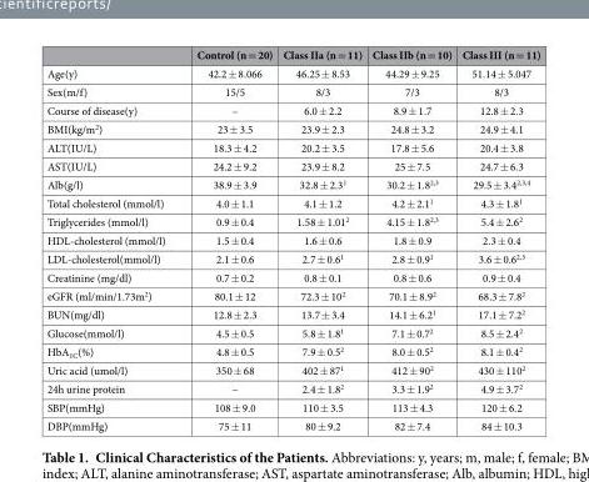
<table><thead><tr><td></td><td>Control (n = 20)</td><td>Class IIa (n = 11)</td><td>Class IIb (n = 10)</td><td>Class III (n = 11)</td></tr></thead><tbody><tr><td>Age(y)</td><td>42.2 ± 8.066</td><td>46.25 ± 8.53</td><td>44.29 ± 9.25</td><td>51.14 ± 5.047</td></tr><tr><td>Sex(m/f)</td><td>15/5</td><td>8/3</td><td>7/3</td><td>8/3</td></tr><tr><td>Course of disease(y)</td><td>–</td><td>6.0 ± 2.2</td><td>8.9 ± 1.7</td><td>12.8 ± 2.3</td></tr><tr><td>BMI(kg/m<sup>2</sup>)</td><td>23 ± 3.5</td><td>23.9 ± 2.3</td><td>24.8 ± 3.2</td><td>24.9 ± 4.1</td></tr><tr><td>ALT(IU/L)</td><td>18.3 ± 4.2</td><td>20.2 ± 3.5</td><td>17.8 ± 5.6</td><td>20.4 ± 3.8</td></tr><tr><td>AST(IU/L)</td><td>24.2 ± 9.2</td><td>23.9 ± 8.2</td><td>25 ± 7.5</td><td>24.7 ± 6.3</td></tr><tr><td>Alb(g/l)</td><td>38.9 ± 3.9</td><td>32.8 ± 2.3<sup>1</sup></td><td>30.2 ± 1.8<sup>2,3</sup></td><td>29.5 ± 3.4<sup>2,3,4</sup></td></tr><tr><td>Total cholesterol (mmol/l)</td><td>4.0 ± 1.1</td><td>4.1 ± 1.2</td><td>4.2 ± 2.1<sup>1</sup></td><td>4.3 ± 1.8<sup>1</sup></td></tr><tr><td>Triglycerides (mmol/l)</td><td>0.9 ± 0.4</td><td>1.58 ± 1.01<sup>2</sup></td><td>4.15 ± 1.8<sup>2,3</sup></td><td>5.4 ± 2.6<sup>2</sup></td></tr><tr><td>HDL-cholesterol (mmol/l)</td><td>1.5 ± 0.4</td><td>1.6 ± 0.6</td><td>1.8 ± 0.9</td><td>2.3 ± 0.4</td></tr><tr><td>LDL-cholesterol(mmol/l)</td><td>2.1 ± 0.6</td><td>2.7 ± 0.6<sup>1</sup></td><td>2.8 ± 0.9<sup>1</sup></td><td>3.6 ± 0.6<sup>2,3</sup></td></tr><tr><td>Creatinine (mg/dl)</td><td>0.7 ± 0.2</td><td>0.8 ± 0.1</td><td>0.8 ± 0.6</td><td>0.9 ± 0.4</td></tr><tr><td>eGFR (ml/min/1.73m<sup>2</sup>)</td><td>80.1 ± 12</td><td>72.3 ± 10<sup>2</sup></td><td>70.1 ± 8.9<sup>2</sup></td><td>68.3 ± 7.8<sup>2</sup></td></tr><tr><td>BUN(mg/dl)</td><td>12.8 ± 2.3</td><td>13.7 ± 3.4</td><td>14.1 ± 6.2<sup>1</sup></td><td>17.1 ± 7.2<sup>2</sup></td></tr><tr><td>Glucose(mmol/l)</td><td>4.5 ± 0.5</td><td>5.8 ± 1.8<sup>1</sup></td><td>7.1 ± 0.7<sup>2</sup></td><td>8.5 ± 2.4<sup>2</sup></td></tr><tr><td>HbA<sub>1C</sub>(%)</td><td>4.8 ± 0.5</td><td>7.9 ± 0.5<sup>2</sup></td><td>8.0 ± 0.5<sup>2</sup></td><td>8.1 ± 0.4<sup>2</sup></td></tr><tr><td>Uric acid (umol/l)</td><td>350 ± 68</td><td>402 ± 87<sup>1</sup></td><td>412 ± 90<sup>2</sup></td><td>430 ± 110<sup>2</sup></td></tr><tr><td>24h urine protein</td><td>–</td><td>2.4 ± 1.8<sup>2</sup></td><td>3.3 ± 1.9<sup>2</sup></td><td>4.9 ± 3.7<sup>2</sup></td></tr><tr><td>SBP(mmHg)</td><td>108 ± 9.0</td><td>110 ± 3.5</td><td>113 ± 4.3</td><td>120 ± 6.2</td></tr><tr><td>DBP(mmHg)</td><td>75 ± 11</td><td>80 ± 9.2</td><td>82 ± 7.4</td><td>84 ± 10.3</td></tr></tbody></table>